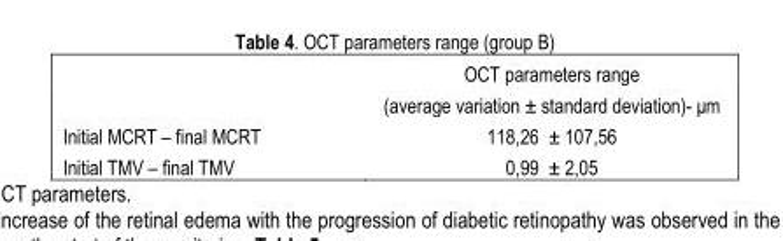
<table><thead><tr><td></td><td>OCT parameters range</td></tr></thead><tbody><tr><td></td><td>(average variation ± standard deviation)- μm</td></tr><tr><td>Initial MCRT – final MCRT</td><td>118,26 ± 107,56</td></tr><tr><td>Initial TMV – final TMV</td><td>0,99 ± 2,05</td></tr></tbody></table>